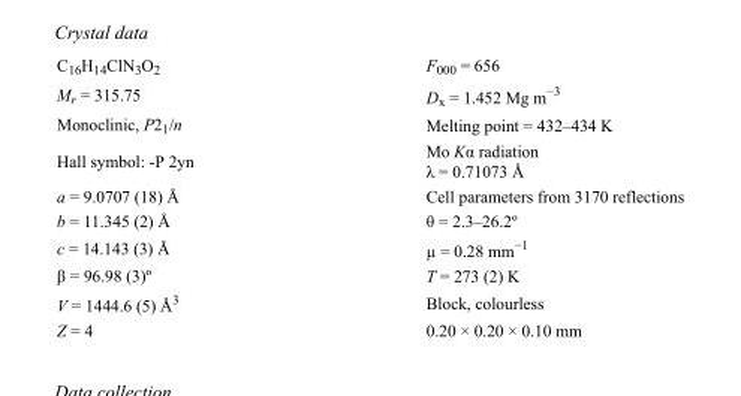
<table><tbody><tr><td>C<sub>16</sub>H<sub>14</sub>ClN<sub>3</sub>O<sub>2</sub></td><td>F<sub>000</sub> = 656</td></tr><tr><td>M<sub>r</sub> = 315.75</td><td>D<sub>x</sub> = 1.452 Mg m<sup>−3</sup></td></tr><tr><td>Monoclinic, P2<sub>1</sub>/n</td><td>Melting point = 432–434 K</td></tr><tr><td>Hall symbol: -P 2yn</td><td>Mo Kα radiation λ = 0.71073 Å</td></tr><tr><td>a = 9.0707 (18) Å</td><td>Cell parameters from 3170 reflections</td></tr><tr><td>b = 11.345 (2) Å</td><td>θ = 2.3–26.2º</td></tr><tr><td>c = 14.143 (3) Å</td><td>µ = 0.28 mm<sup>−1</sup></td></tr><tr><td>β = 96.98 (3)º</td><td>T = 273 (2) K</td></tr><tr><td>V = 1444.6 (5) Å<sup>3</sup></td><td>Block, colourless</td></tr><tr><td>Z = 4</td><td>0.20 × 0.20 × 0.10 mm</td></tr></tbody></table>